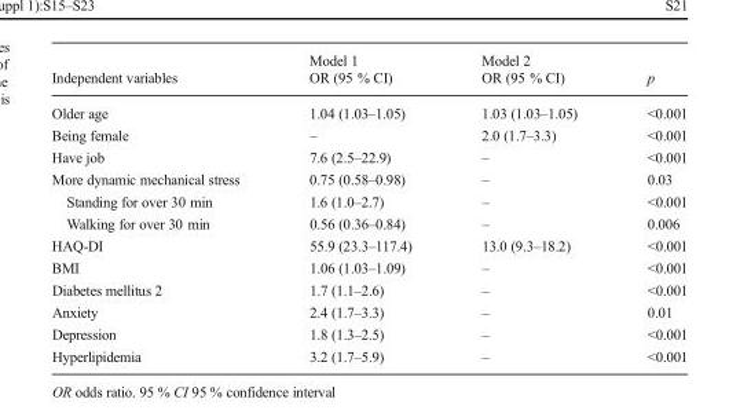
<table><thead><tr><td rowspan="2">Independent variables</td><td rowspan="2">Model 1 OR (95 % CI)</td><td rowspan="2">Model 2 OR (95 % CI)</td><td rowspan="2">p</td></tr><tr></tr></thead><tbody><tr><td>Older age</td><td>1.04 (1.03–1.05)</td><td>1.03 (1.03–1.05)</td><td>&lt;0.001</td></tr><tr><td>Being female</td><td>–</td><td>2.0 (1.7–3.3)</td><td>&lt;0.001</td></tr><tr><td>Have job</td><td>7.6 (2.5–22.9)</td><td>–</td><td>&lt;0.001</td></tr><tr><td>More dynamic mechanical stress</td><td>0.75 (0.58–0.98)</td><td>–</td><td>0.03</td></tr><tr><td>Standing for over 30 min</td><td>1.6 (1.0–2.7)</td><td>–</td><td>&lt;0.001</td></tr><tr><td>Walking for over 30 min</td><td>0.56 (0.36–0.84)</td><td>–</td><td>0.006</td></tr><tr><td>HAQ-DI</td><td>55.9 (23.3–117.4)</td><td>13.0 (9.3–18.2)</td><td>&lt;0.001</td></tr><tr><td>BMI</td><td>1.06 (1.03–1.09)</td><td>–</td><td>&lt;0.001</td></tr><tr><td>Diabetes mellitus 2</td><td>1.7 (1.1–2.6)</td><td>–</td><td>&lt;0.001</td></tr><tr><td>Anxiety</td><td>2.4 (1.7–3.3)</td><td>–</td><td>0.01</td></tr><tr><td>Depression</td><td>1.8 (1.3–2.5)</td><td>–</td><td>&lt;0.001</td></tr><tr><td>Hyperlipidemia</td><td>3.2 (1.7–5.9)</td><td>–</td><td>&lt;0.001</td></tr></tbody></table>